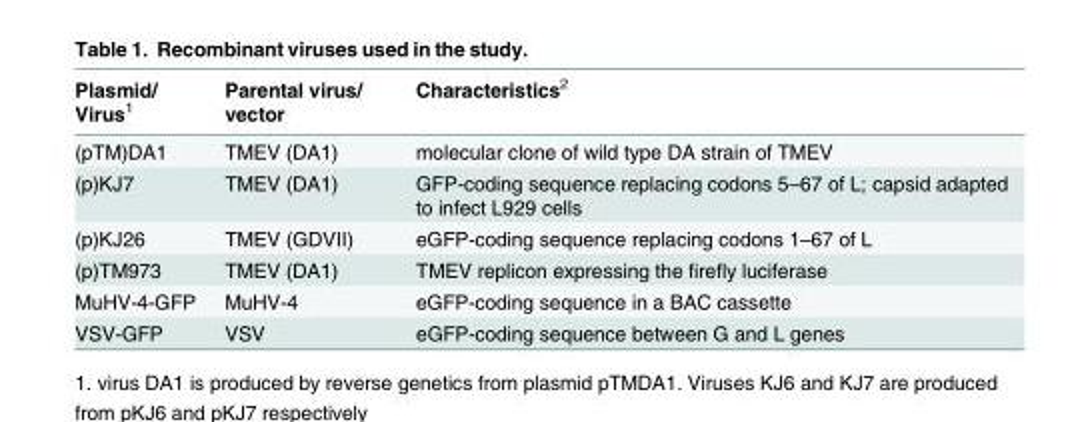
<table><thead><tr><td>Plasmid/ Virus<sup>1</sup></td><td>Parental virus/ vector</td><td>Characteristics<sup>2</sup></td></tr></thead><tbody><tr><td>(pTM)DA1</td><td>TMEV (DA1)</td><td>molecular clone of wild type DA strain of TMEV</td></tr><tr><td>(p)KJ7</td><td>TMEV (DA1)</td><td>GFP-coding sequence replacing codons 5–67 of L; capsid adapted to infect L929 cells</td></tr><tr><td>(p)KJ26</td><td>TMEV (GDVII)</td><td>eGFP-coding sequence replacing codons 1–67 of L</td></tr><tr><td>(p)TM973</td><td>TMEV (DA1)</td><td>TMEV replicon expressing the firefly luciferase</td></tr><tr><td>MuHV-4-GFP</td><td>MuHV-4</td><td>eGFP-coding sequence in a BAC cassette</td></tr><tr><td>VSV-GFP</td><td>VSV</td><td>eGFP-coding sequence between G and L genes</td></tr></tbody></table>